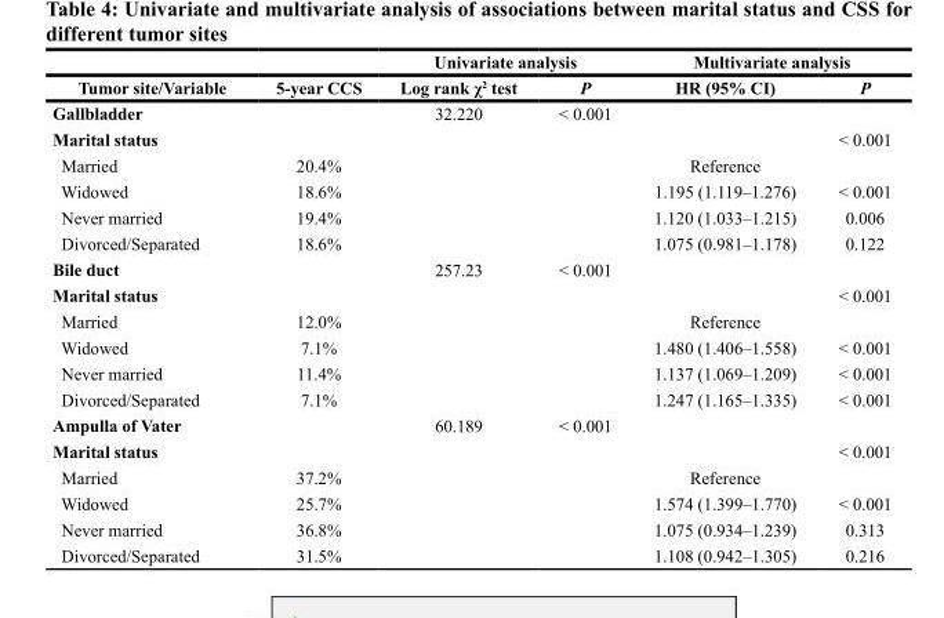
<table><thead><tr><td rowspan="2">Tumor site/Variable</td><td rowspan="2">5-year CCS</td><td colspan="2">Univariate analysis</td><td colspan="2">Multivariate analysis</td></tr><tr><td>Log rank χ<sup>2</sup> test</td><td>P</td><td>HR (95% CI)</td><td>P</td></tr></thead><tbody><tr><td>Gallbladder</td><td></td><td>32.220</td><td>&lt; 0.001</td><td></td><td></td></tr><tr><td>Marital status</td><td></td><td></td><td></td><td></td><td>&lt; 0.001</td></tr><tr><td>Married</td><td>20.4%</td><td></td><td></td><td>Reference</td><td></td></tr><tr><td>Widowed</td><td>18.6%</td><td></td><td></td><td>1.195 (1.119–1.276)</td><td>&lt; 0.001</td></tr><tr><td>Never married</td><td>19.4%</td><td></td><td></td><td>1.120 (1.033–1.215)</td><td>0.006</td></tr><tr><td>Divorced/Separated</td><td>18.6%</td><td></td><td></td><td>1.075 (0.981–1.178)</td><td>0.122</td></tr><tr><td>Bile duct</td><td></td><td>257.23</td><td>&lt; 0.001</td><td></td><td></td></tr><tr><td>Marital status</td><td></td><td></td><td></td><td></td><td>&lt; 0.001</td></tr><tr><td>Married</td><td>12.0%</td><td></td><td></td><td>Reference</td><td></td></tr><tr><td>Widowed</td><td>7.1%</td><td></td><td></td><td>1.480 (1.406–1.558)</td><td>&lt; 0.001</td></tr><tr><td>Never married</td><td>11.4%</td><td></td><td></td><td>1.137 (1.069–1.209)</td><td>&lt; 0.001</td></tr><tr><td>Divorced/Separated</td><td>7.1%</td><td></td><td></td><td>1.247 (1.165–1.335)</td><td>&lt; 0.001</td></tr><tr><td>Ampulla of Vater</td><td></td><td>60.189</td><td>&lt; 0.001</td><td></td><td></td></tr><tr><td>Marital status</td><td></td><td></td><td></td><td></td><td>&lt; 0.001</td></tr><tr><td>Married</td><td>37.2%</td><td></td><td></td><td>Reference</td><td></td></tr><tr><td>Widowed</td><td>25.7%</td><td></td><td></td><td>1.574 (1.399–1.770)</td><td>&lt; 0.001</td></tr><tr><td>Never married</td><td>36.8%</td><td></td><td></td><td>1.075 (0.934–1.239)</td><td>0.313</td></tr><tr><td>Divorced/Separated</td><td>31.5%</td><td></td><td></td><td>1.108 (0.942–1.305)</td><td>0.216</td></tr></tbody></table>